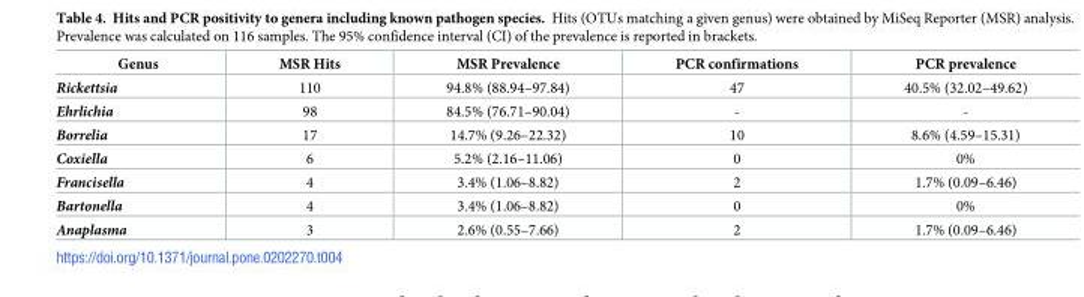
<table><thead><tr><td>Genus</td><td>MSR Hits</td><td>MSR Prevalence</td><td>PCR confirmations</td><td>PCR prevalence</td></tr></thead><tbody><tr><td>Rickettsia</td><td>110</td><td>94.8% (88.94–97.84)</td><td>47</td><td>40.5% (32.02–49.62)</td></tr><tr><td>Ehrlichia</td><td>98</td><td>84.5% (76.71–90.04)</td><td>-</td><td>-</td></tr><tr><td>Borrelia</td><td>17</td><td>14.7% (9.26–22.32)</td><td>10</td><td>8.6% (4.59–15.31)</td></tr><tr><td>Coxiella</td><td>6</td><td>5.2% (2.16–11.06)</td><td>0</td><td>0%</td></tr><tr><td>Francisella</td><td>4</td><td>3.4% (1.06–8.82)</td><td>2</td><td>1.7% (0.09–6.46)</td></tr><tr><td>Bartonella</td><td>4</td><td>3.4% (1.06–8.82)</td><td>0</td><td>0%</td></tr><tr><td>Anaplasma</td><td>3</td><td>2.6% (0.55–7.66)</td><td>2</td><td>1.7% (0.09–6.46)</td></tr></tbody></table>